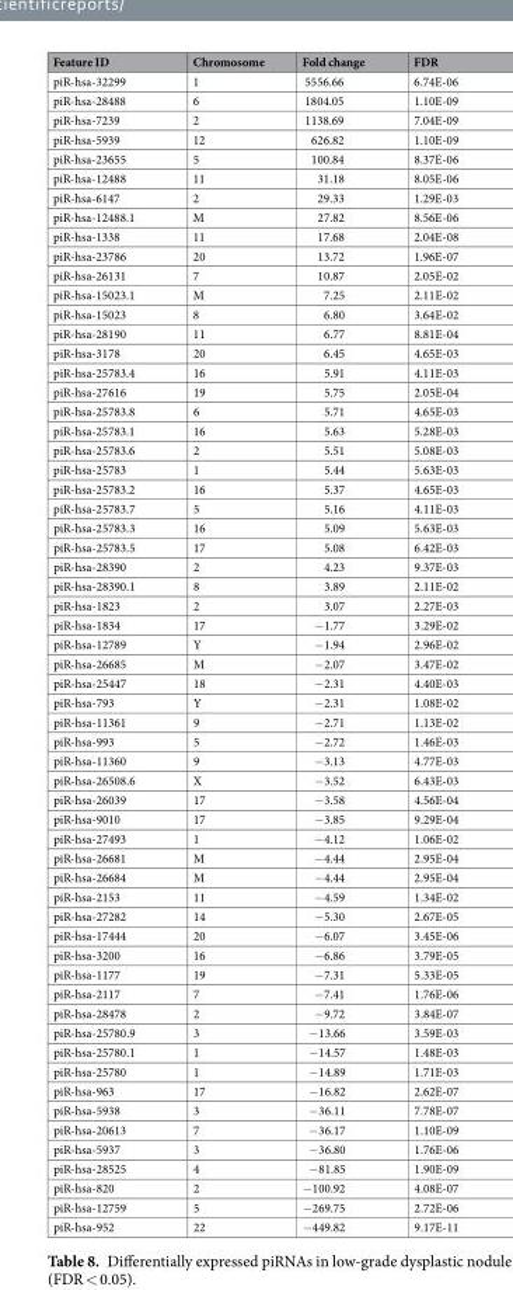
<table><thead><tr><td>Feature ID</td><td>Chromosome</td><td>Fold change</td><td>FDR</td></tr></thead><tbody><tr><td>piR-hsa-32299</td><td>1</td><td>5556.66</td><td>6.74E-06</td></tr><tr><td>piR-hsa-28488</td><td>6</td><td>1804.05</td><td>1.10E-09</td></tr><tr><td>piR-hsa-7239</td><td>2</td><td>1138.69</td><td>7.04E-09</td></tr><tr><td>piR-hsa-5939</td><td>12</td><td>626.82</td><td>1.10E-09</td></tr><tr><td>piR-hsa-23655</td><td>5</td><td>100.84</td><td>8.37E-06</td></tr><tr><td>piR-hsa-12488</td><td>11</td><td>31.18</td><td>8.05E-06</td></tr><tr><td>piR-hsa-6147</td><td>2</td><td>29.33</td><td>1.29E-03</td></tr><tr><td>piR-hsa-12488.1</td><td>M</td><td>27.82</td><td>8.56E-06</td></tr><tr><td>piR-hsa-1338</td><td>11</td><td>17.68</td><td>2.04E-08</td></tr><tr><td>piR-hsa-23786</td><td>20</td><td>13.72</td><td>1.96E-07</td></tr><tr><td>piR-hsa-26131</td><td>7</td><td>10.87</td><td>2.05E-02</td></tr><tr><td>piR-hsa-15023.1</td><td>M</td><td>7.25</td><td>2.11E-02</td></tr><tr><td>piR-hsa-15023</td><td>8</td><td>6.80</td><td>3.64E-02</td></tr><tr><td>piR-hsa-28190</td><td>11</td><td>6.77</td><td>8.81E-04</td></tr><tr><td>piR-hsa-3178</td><td>20</td><td>6.45</td><td>4.65E-03</td></tr><tr><td>piR-hsa-25783.4</td><td>16</td><td>5.91</td><td>4.11E-03</td></tr><tr><td>piR-hsa-27616</td><td>19</td><td>5.75</td><td>2.05E-04</td></tr><tr><td>piR-hsa-25783.8</td><td>6</td><td>5.71</td><td>4.65E-03</td></tr><tr><td>piR-hsa-25783.1</td><td>16</td><td>5.63</td><td>5.28E-03</td></tr><tr><td>piR-hsa-25783.6</td><td>2</td><td>5.51</td><td>5.08E-03</td></tr><tr><td>piR-hsa-25783</td><td>1</td><td>5.44</td><td>5.63E-03</td></tr><tr><td>piR-hsa-25783.2</td><td>16</td><td>5.37</td><td>4.65E-03</td></tr><tr><td>piR-hsa-25783.7</td><td>5</td><td>5.16</td><td>4.11E-03</td></tr><tr><td>piR-hsa-25783.3</td><td>16</td><td>5.09</td><td>5.63E-03</td></tr><tr><td>piR-hsa-25783.5</td><td>17</td><td>5.08</td><td>6.42E-03</td></tr><tr><td>piR-hsa-28390</td><td>2</td><td>4.23</td><td>9.37E-03</td></tr><tr><td>piR-hsa-28390.1</td><td>8</td><td>3.89</td><td>2.11E-02</td></tr><tr><td>piR-hsa-1823</td><td>2</td><td>3.07</td><td>2.27E-03</td></tr><tr><td>piR-hsa-1834</td><td>17</td><td>−1.77</td><td>3.29E-02</td></tr><tr><td>piR-hsa-12789</td><td>Y</td><td>−1.94</td><td>2.96E-02</td></tr><tr><td>piR-hsa-26685</td><td>M</td><td>−2.07</td><td>3.47E-02</td></tr><tr><td>piR-hsa-25447</td><td>18</td><td>−2.31</td><td>4.40E-03</td></tr><tr><td>piR-hsa-793</td><td>Y</td><td>−2.31</td><td>1.08E-02</td></tr><tr><td>piR-hsa-11361</td><td>9</td><td>−2.71</td><td>1.13E-02</td></tr><tr><td>piR-hsa-993</td><td>5</td><td>−2.72</td><td>1.46E-03</td></tr><tr><td>piR-hsa-11360</td><td>9</td><td>−3.13</td><td>4.77E-03</td></tr><tr><td>piR-hsa-26508.6</td><td>X</td><td>−3.52</td><td>6.43E-03</td></tr><tr><td>piR-hsa-26039</td><td>17</td><td>−3.58</td><td>4.56E-04</td></tr><tr><td>piR-hsa-9010</td><td>17</td><td>−3.85</td><td>9.29E-04</td></tr><tr><td>piR-hsa-27493</td><td>1</td><td>−4.12</td><td>1.06E-02</td></tr><tr><td>piR-hsa-26681</td><td>M</td><td>−4.44</td><td>2.95E-04</td></tr><tr><td>piR-hsa-26684</td><td>M</td><td>−4.44</td><td>2.95E-04</td></tr><tr><td>piR-hsa-2153</td><td>11</td><td>−4.59</td><td>1.34E-02</td></tr><tr><td>piR-hsa-27282</td><td>14</td><td>−5.30</td><td>2.67E-05</td></tr><tr><td>piR-hsa-17444</td><td>20</td><td>−6.07</td><td>3.45E-06</td></tr><tr><td>piR-hsa-3200</td><td>16</td><td>−6.86</td><td>3.79E-05</td></tr><tr><td>piR-hsa-1177</td><td>19</td><td>−7.31</td><td>5.33E-05</td></tr><tr><td>piR-hsa-2117</td><td>7</td><td>−7.41</td><td>1.76E-06</td></tr><tr><td>piR-hsa-28478</td><td>2</td><td>−9.72</td><td>3.84E-07</td></tr><tr><td>piR-hsa-25780.9</td><td>3</td><td>−13.66</td><td>3.59E-03</td></tr><tr><td>piR-hsa-25780.1</td><td>1</td><td>−14.57</td><td>1.48E-03</td></tr><tr><td>piR-hsa-25780</td><td>1</td><td>−14.89</td><td>1.71E-03</td></tr><tr><td>piR-hsa-963</td><td>17</td><td>−16.82</td><td>2.62E-07</td></tr><tr><td>piR-hsa-5938</td><td>3</td><td>−36.11</td><td>7.78E-07</td></tr><tr><td>piR-hsa-20613</td><td>7</td><td>−36.17</td><td>1.10E-09</td></tr><tr><td>piR-hsa-5937</td><td>3</td><td>−36.80</td><td>1.76E-06</td></tr><tr><td>piR-hsa-28525</td><td>4</td><td>−81.85</td><td>1.90E-09</td></tr><tr><td>piR-hsa-820</td><td>2</td><td>−100.92</td><td>4.08E-07</td></tr><tr><td>piR-hsa-12759</td><td>5</td><td>−269.75</td><td>2.72E-06</td></tr><tr><td>piR-hsa-952</td><td>22</td><td>−449.82</td><td>9.17E-11</td></tr></tbody></table>